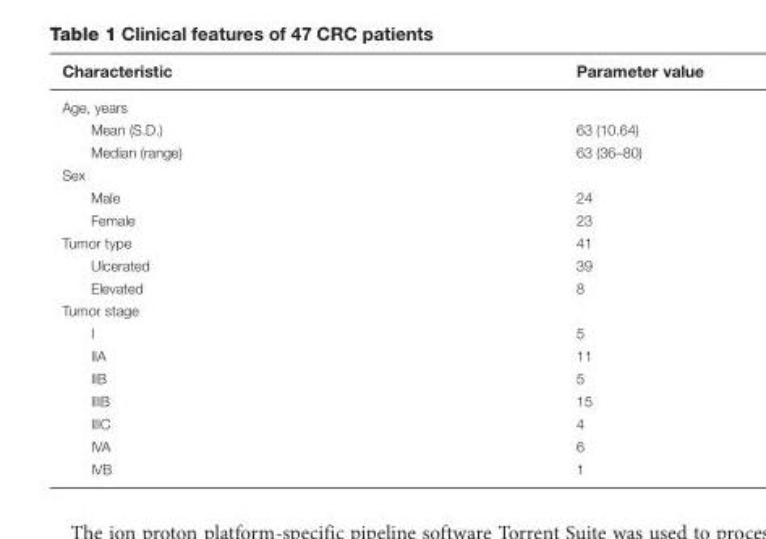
<table><thead><tr><td>Characteristic</td><td>Parameter value</td></tr></thead><tbody><tr><td colspan="2">Age, years</td></tr><tr><td>Mean (S.D.)</td><td>63 (10.64)</td></tr><tr><td>Median (range)</td><td>63 (36–80)</td></tr><tr><td colspan="2">Sex</td></tr><tr><td>Male</td><td>24</td></tr><tr><td>Female</td><td>23</td></tr><tr><td>Tumor type</td><td>41</td></tr><tr><td>Ulcerated</td><td>39</td></tr><tr><td>Elevated</td><td>8</td></tr><tr><td colspan="2">Tumor stage</td></tr><tr><td>I</td><td>5</td></tr><tr><td>IIA</td><td>11</td></tr><tr><td>IIB</td><td>5</td></tr><tr><td>IIIB</td><td>15</td></tr><tr><td>IIIC</td><td>4</td></tr><tr><td>IVA</td><td>6</td></tr><tr><td>IVB</td><td>1</td></tr></tbody></table>